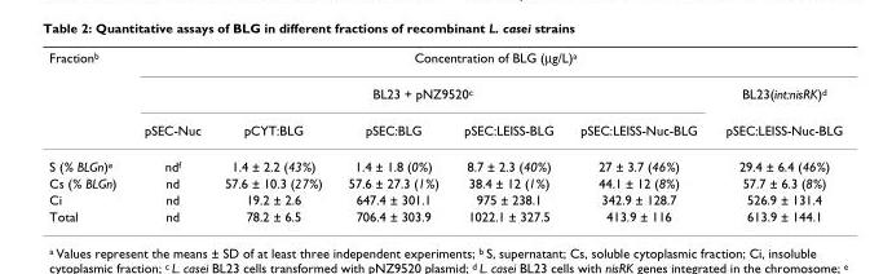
<table><thead><tr><td rowspan="3">Fraction<sup>b</sup></td><td colspan="6">Concentration of BLG (μg/L)<sup>a</sup></td></tr><tr><td colspan="5">BL23 + pNZ9520<sup>c</sup></td><td rowspan="2">BL23(int:nisRK)<sup>d</sup> pSEC:LEISS-Nuc-BLG</td></tr><tr><td>pSEC-Nuc</td><td>pCYT:BLG</td><td>pSEC:BLG</td><td>pSEC:LEISS-BLG</td><td>pSEC:LEISS-Nuc-BLG</td></tr></thead><tbody><tr><td>S (% BLGn)<sup>e</sup></td><td>nd<sup>f</sup></td><td>1.4 ± 2.2 (43%)</td><td>1.4 ± 1.8 (0%)</td><td>8.7 ± 2.3 (40%)</td><td>27 ± 3.7 (46%)</td><td>29.4 ± 6.4 (46%)</td></tr><tr><td>Cs (% BLGn)</td><td>nd</td><td>57.6 ± 10.3 (27%)</td><td>57.6 ± 27.3 (1%)</td><td>38.4 ± 12 (1%)</td><td>44.1 ± 12 (8%)</td><td>57.7 ± 6.3 (8%)</td></tr><tr><td>Ci</td><td>nd</td><td>19.2 ± 2.6</td><td>647.4 ± 301.1</td><td>975 ± 238.1</td><td>342.9 ± 128.7</td><td>526.9 ± 131.4</td></tr><tr><td>Total</td><td>nd</td><td>78.2 ± 6.5</td><td>706.4 ± 303.9</td><td>1022.1 ± 327.5</td><td>413.9 ± 116</td><td>613.9 ± 144.1</td></tr></tbody></table>